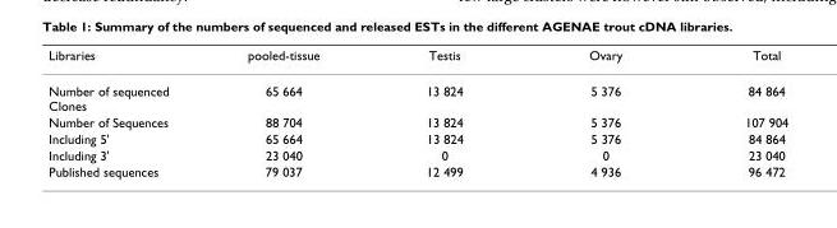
<table><thead><tr><td>Libraries</td><td>pooled-tissue</td><td>Testis</td><td>Ovary</td><td>Total</td></tr></thead><tbody><tr><td>Number of sequenced Clones</td><td>65 664</td><td>13 824</td><td>5 376</td><td>84 864</td></tr><tr><td>Number of Sequences</td><td>88 704</td><td>13 824</td><td>5 376</td><td>107 904</td></tr><tr><td>Including 5&#x27;</td><td>65 664</td><td>13 824</td><td>5 376</td><td>84 864</td></tr><tr><td>Including 3&#x27;</td><td>23 040</td><td>0</td><td>0</td><td>23 040</td></tr><tr><td>Published sequences</td><td>79 037</td><td>12 499</td><td>4 936</td><td>96 472</td></tr></tbody></table>